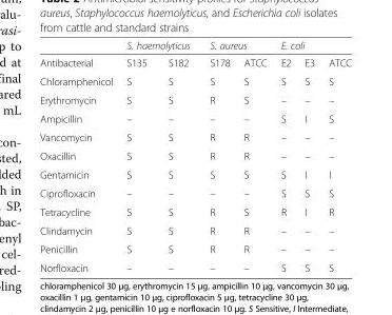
<table><thead><tr><td rowspan="2">Antibacterial</td><td colspan="2">S. haemolyticus</td><td colspan="2">S. aureus</td><td colspan="3">E. coli</td></tr><tr><td>S135</td><td>S182</td><td>S178</td><td>ATCC</td><td>E2</td><td>E3</td><td>ATCC</td></tr></thead><tbody><tr><td>Chloramphenicol</td><td>S</td><td>S</td><td>S</td><td>S</td><td>S</td><td>S</td><td>S</td></tr><tr><td>Erythromycin</td><td>S</td><td>S</td><td>R</td><td>S</td><td>–</td><td>–</td><td>–</td></tr><tr><td>Ampicillin</td><td>–</td><td>–</td><td>–</td><td>–</td><td>S</td><td>I</td><td>S</td></tr><tr><td>Vancomycin</td><td>S</td><td>S</td><td>R</td><td>R</td><td>–</td><td>–</td><td>–</td></tr><tr><td>Oxacillin</td><td>S</td><td>S</td><td>R</td><td>R</td><td>–</td><td>–</td><td>–</td></tr><tr><td>Gentamicin</td><td>S</td><td>S</td><td>S</td><td>S</td><td>S</td><td>I</td><td>I</td></tr><tr><td>Ciprofloxacin</td><td>–</td><td>–</td><td>–</td><td>–</td><td>S</td><td>S</td><td>S</td></tr><tr><td>Tetracycline</td><td>S</td><td>S</td><td>R</td><td>S</td><td>R</td><td>I</td><td>R</td></tr><tr><td>Clindamycin</td><td>S</td><td>S</td><td>R</td><td>R</td><td>–</td><td>–</td><td>–</td></tr><tr><td>Penicillin</td><td>S</td><td>S</td><td>R</td><td>R</td><td>–</td><td>–</td><td>–</td></tr><tr><td>Norfloxacin</td><td>–</td><td>–</td><td>–</td><td>–</td><td>S</td><td>S</td><td>S</td></tr></tbody></table>